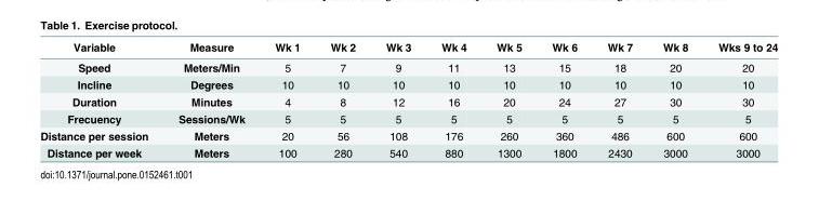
<table><thead><tr><td>Variable</td><td>Measure</td><td>Wk 1</td><td>Wk 2</td><td>Wk 3</td><td>Wk 4</td><td>Wk 5</td><td>Wk 6</td><td>Wk 7</td><td>Wk 8</td><td>Wks 9 to 24</td></tr></thead><tbody><tr><td>Speed</td><td>Meters/Min</td><td>5</td><td>7</td><td>9</td><td>11</td><td>13</td><td>15</td><td>18</td><td>20</td><td>20</td></tr><tr><td>Incline</td><td>Degrees</td><td>10</td><td>10</td><td>10</td><td>10</td><td>10</td><td>10</td><td>10</td><td>10</td><td>10</td></tr><tr><td>Duration</td><td>Minutes</td><td>4</td><td>8</td><td>12</td><td>16</td><td>20</td><td>24</td><td>27</td><td>30</td><td>30</td></tr><tr><td>Frecuency</td><td>Sessions/Wk</td><td>5</td><td>5</td><td>5</td><td>5</td><td>5</td><td>5</td><td>5</td><td>5</td><td>5</td></tr><tr><td>Distance per session</td><td>Meters</td><td>20</td><td>56</td><td>108</td><td>176</td><td>260</td><td>360</td><td>486</td><td>600</td><td>600</td></tr><tr><td>Distance per week</td><td>Meters</td><td>100</td><td>280</td><td>540</td><td>880</td><td>1300</td><td>1800</td><td>2430</td><td>3000</td><td>3000</td></tr></tbody></table>